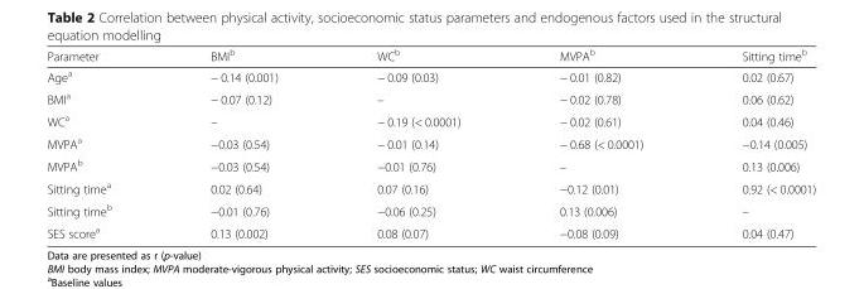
<table><thead><tr><td>Parameter</td><td>BMI<sup>b</sup></td><td>WC<sup>b</sup></td><td>MVPA<sup>b</sup></td><td>Sitting time<sup>b</sup></td></tr></thead><tbody><tr><td>Age<sup>a</sup></td><td>− 0.14 (0.001)</td><td>− 0.09 (0.03)</td><td>− 0.01 (0.82)</td><td>0.02 (0.67)</td></tr><tr><td>BMI<sup>a</sup></td><td>− 0.07 (0.12)</td><td>–</td><td>− 0.02 (0.78)</td><td>0.06 (0.62)</td></tr><tr><td>WC<sup>a</sup></td><td>–</td><td>− 0.19 (&lt; 0.0001)</td><td>− 0.02 (0.61)</td><td>0.04 (0.46)</td></tr><tr><td>MVPA<sup>a</sup></td><td>−0.03 (0.54)</td><td>− 0.01 (0.14)</td><td>− 0.68 (&lt; 0.0001)</td><td>−0.14 (0.005)</td></tr><tr><td>MVPA<sup>b</sup></td><td>−0.03 (0.54)</td><td>−0.01 (0.76)</td><td>–</td><td>0.13 (0.006)</td></tr><tr><td>Sitting time<sup>a</sup></td><td>0.02 (0.64)</td><td>0.07 (0.16)</td><td>−0.12 (0.01)</td><td>0.92 (&lt; 0.0001)</td></tr><tr><td>Sitting time<sup>b</sup></td><td>−0.01 (0.76)</td><td>−0.06 (0.25)</td><td>0.13 (0.006)</td><td>–</td></tr><tr><td>SES score<sup>a</sup></td><td>0.13 (0.002)</td><td>0.08 (0.07)</td><td>−0.08 (0.09)</td><td>0.04 (0.47)</td></tr></tbody></table>